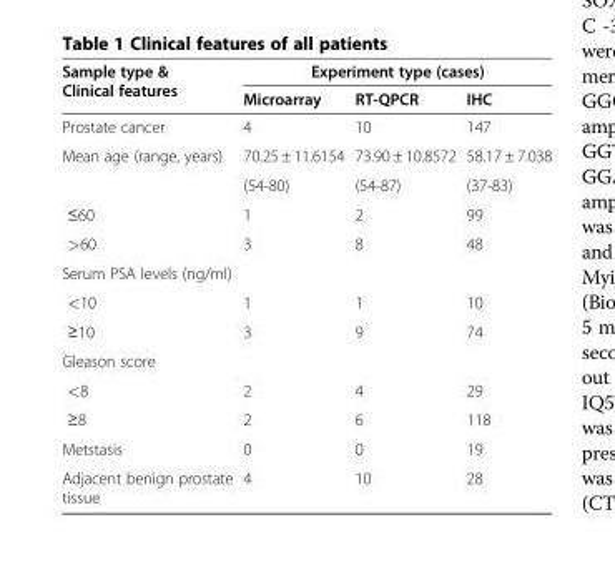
<table><thead><tr><td rowspan="2">Sample type &amp; Clinical features</td><td colspan="3">Experiment type (cases)</td></tr><tr><td>Microarray</td><td>RT-QPCR</td><td>IHC</td></tr></thead><tbody><tr><td>Prostate cancer</td><td>4</td><td>10</td><td>147</td></tr><tr><td rowspan="2">Mean age (range, years)</td><td>70.25 ± 11.6154</td><td>73.90 ± 10.8572</td><td>58.17 ± 7.038</td></tr><tr><td>(54-80)</td><td>(54-87)</td><td>(37-83)</td></tr><tr><td>≤60</td><td>1</td><td>2</td><td>99</td></tr><tr><td>&gt;60</td><td>3</td><td>8</td><td>48</td></tr><tr><td colspan="4">Serum PSA levels (ng/ml)</td></tr><tr><td>&lt;10</td><td>1</td><td>1</td><td>10</td></tr><tr><td>≥10</td><td>3</td><td>9</td><td>74</td></tr><tr><td colspan="4">Gleason score</td></tr><tr><td>&lt;8</td><td>2</td><td>4</td><td>29</td></tr><tr><td>≥8</td><td>2</td><td>6</td><td>118</td></tr><tr><td>Metstasis</td><td>0</td><td>0</td><td>19</td></tr><tr><td>Adjacent benign prostate tissue</td><td>4</td><td>10</td><td>28</td></tr></tbody></table>